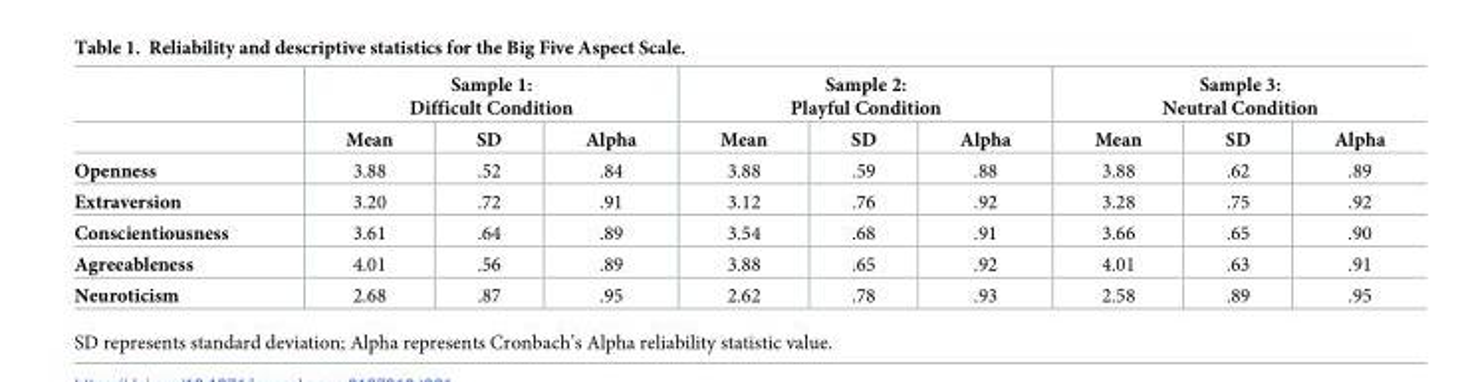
<table><thead><tr><td rowspan="2"></td><td colspan="3">Sample 1: Difficult Condition</td><td colspan="3">Sample 2: Playful Condition</td><td colspan="3">Sample 3: Neutral Condition</td></tr><tr><td>Mean</td><td>SD</td><td>Alpha</td><td>Mean</td><td>SD</td><td>Alpha</td><td>Mean</td><td>SD</td><td>Alpha</td></tr></thead><tbody><tr><td>Openness</td><td>3.88</td><td>.52</td><td>.84</td><td>3.88</td><td>.59</td><td>.88</td><td>3.88</td><td>.62</td><td>.89</td></tr><tr><td>Extraversion</td><td>3.20</td><td>.72</td><td>.91</td><td>3.12</td><td>.76</td><td>.92</td><td>3.28</td><td>.75</td><td>.92</td></tr><tr><td>Conscientiousness</td><td>3.61</td><td>.64</td><td>.89</td><td>3.54</td><td>.68</td><td>.91</td><td>3.66</td><td>.65</td><td>.90</td></tr><tr><td>Agreeableness</td><td>4.01</td><td>.56</td><td>.89</td><td>3.88</td><td>.65</td><td>.92</td><td>4.01</td><td>.63</td><td>.91</td></tr><tr><td>Neuroticism</td><td>2.68</td><td>.87</td><td>.95</td><td>2.62</td><td>.78</td><td>.93</td><td>2.58</td><td>.89</td><td>.95</td></tr></tbody></table>